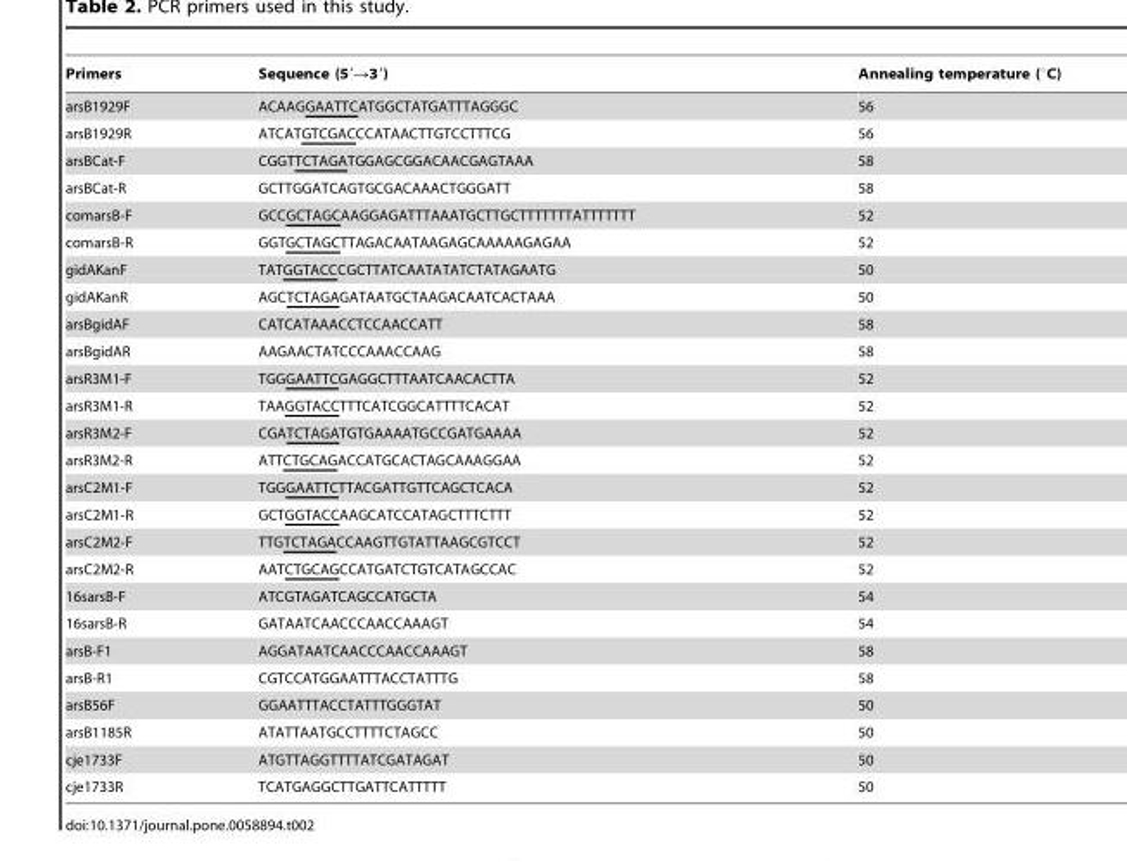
<table><thead><tr><td>Primers</td><td>Sequence (5′→3′)</td><td>Annealing temperature (°C)</td></tr></thead><tbody><tr><td>arsB1929F</td><td>ACAAGGAATTCATGGCTATGATTTAGGGC</td><td>56</td></tr><tr><td>arsB1929R</td><td>ATCATGTCGACCCATAACTTGTCCTTTCG</td><td>56</td></tr><tr><td>arsBCat-F</td><td>CGGTTCTAGATGGAGCGGACAACGAGTAAA</td><td>58</td></tr><tr><td>arsBCat-R</td><td>GCTTGGATCAGTGCGACAAACTGGGATT</td><td>58</td></tr><tr><td>comarsB-F</td><td>GCCGCTAGCAAGGAGATTTAAATGCTTGCTTTTTTTATTTTTTT</td><td>52</td></tr><tr><td>comarsB-R</td><td>GGTGCTAGCTTAGACAATAAGAGCAAAAAGAGAA</td><td>52</td></tr><tr><td>gidAKanF</td><td>TATGGTACCCGCTTATCAATATATCTATAGAATG</td><td>50</td></tr><tr><td>gidAKanR</td><td>AGCTCTAGAGATAATGCTAAGACAATCACTAAA</td><td>50</td></tr><tr><td>arsBgidAF</td><td>CATCATAAACCTCCAACCATT</td><td>58</td></tr><tr><td>arsBgidAR</td><td>AAGAACTATCCCAAACCAAG</td><td>58</td></tr><tr><td>arsR3M1-F</td><td>TGGGAATTCGAGGCTTTAATCAACACTTA</td><td>52</td></tr><tr><td>arsR3M1-R</td><td>TAAGGTACCTTTCATCGGCATTTTCACAT</td><td>52</td></tr><tr><td>arsR3M2-F</td><td>CGATCTAGATGTGAAAATGCCGATGAAAA</td><td>52</td></tr><tr><td>arsR3M2-R</td><td>ATTCTGCAGACCATGCACTAGCAAAGGAA</td><td>52</td></tr><tr><td>arsC2M1-F</td><td>TGGGAATTCTTACGATTGTTCAGCTCACA</td><td>52</td></tr><tr><td>arsC2M1-R</td><td>GCTGGTACCAAGCATCCATAGCTTTCTTT</td><td>52</td></tr><tr><td>arsC2M2-F</td><td>TTGTCTAGACCAAGTTGTATTAAGCGTCCT</td><td>52</td></tr><tr><td>arsC2M2-R</td><td>AATCTGCAGCCATGATCTGTCATAGCCAC</td><td>52</td></tr><tr><td>16sarsB-F</td><td>ATCGTAGATCAGCCATGCTA</td><td>54</td></tr><tr><td>16sarsB-R</td><td>GATAATCAACCCAACCAAAGT</td><td>54</td></tr><tr><td>arsB-F1</td><td>AGGATAATCAACCCAACCAAAGT</td><td>58</td></tr><tr><td>arsB-R1</td><td>CGTCCATGGAATTTACCTATTTG</td><td>58</td></tr><tr><td>arsB56F</td><td>GGAATTTACCTATTTGGGTAT</td><td>50</td></tr><tr><td>arsB1185R</td><td>ATATTAATGCCTTTTCTAGCC</td><td>50</td></tr><tr><td>cje1733F</td><td>ATGTTAGGTTTTATCGATAGAT</td><td>50</td></tr><tr><td>cje1733R</td><td>TCATGAGGCTTGATTCATTTTT</td><td>50</td></tr></tbody></table>